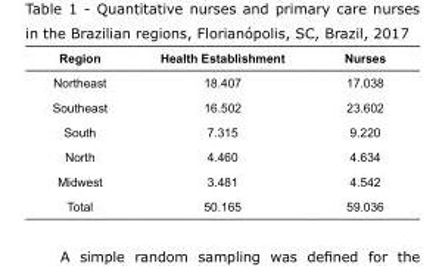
<table><tbody><tr><td>Region</td><td>Health Establishment</td><td>Nurses</td></tr><tr><td>Northeast</td><td>18.407</td><td>17.038</td></tr><tr><td>Southeast</td><td>16.502</td><td>23.602</td></tr><tr><td>South</td><td>7.315</td><td>9.220</td></tr><tr><td>North</td><td>4.460</td><td>4.634</td></tr><tr><td>Midwest</td><td>3.481</td><td>4.542</td></tr><tr><td>Total</td><td>50.165</td><td>59.036</td></tr></tbody></table>